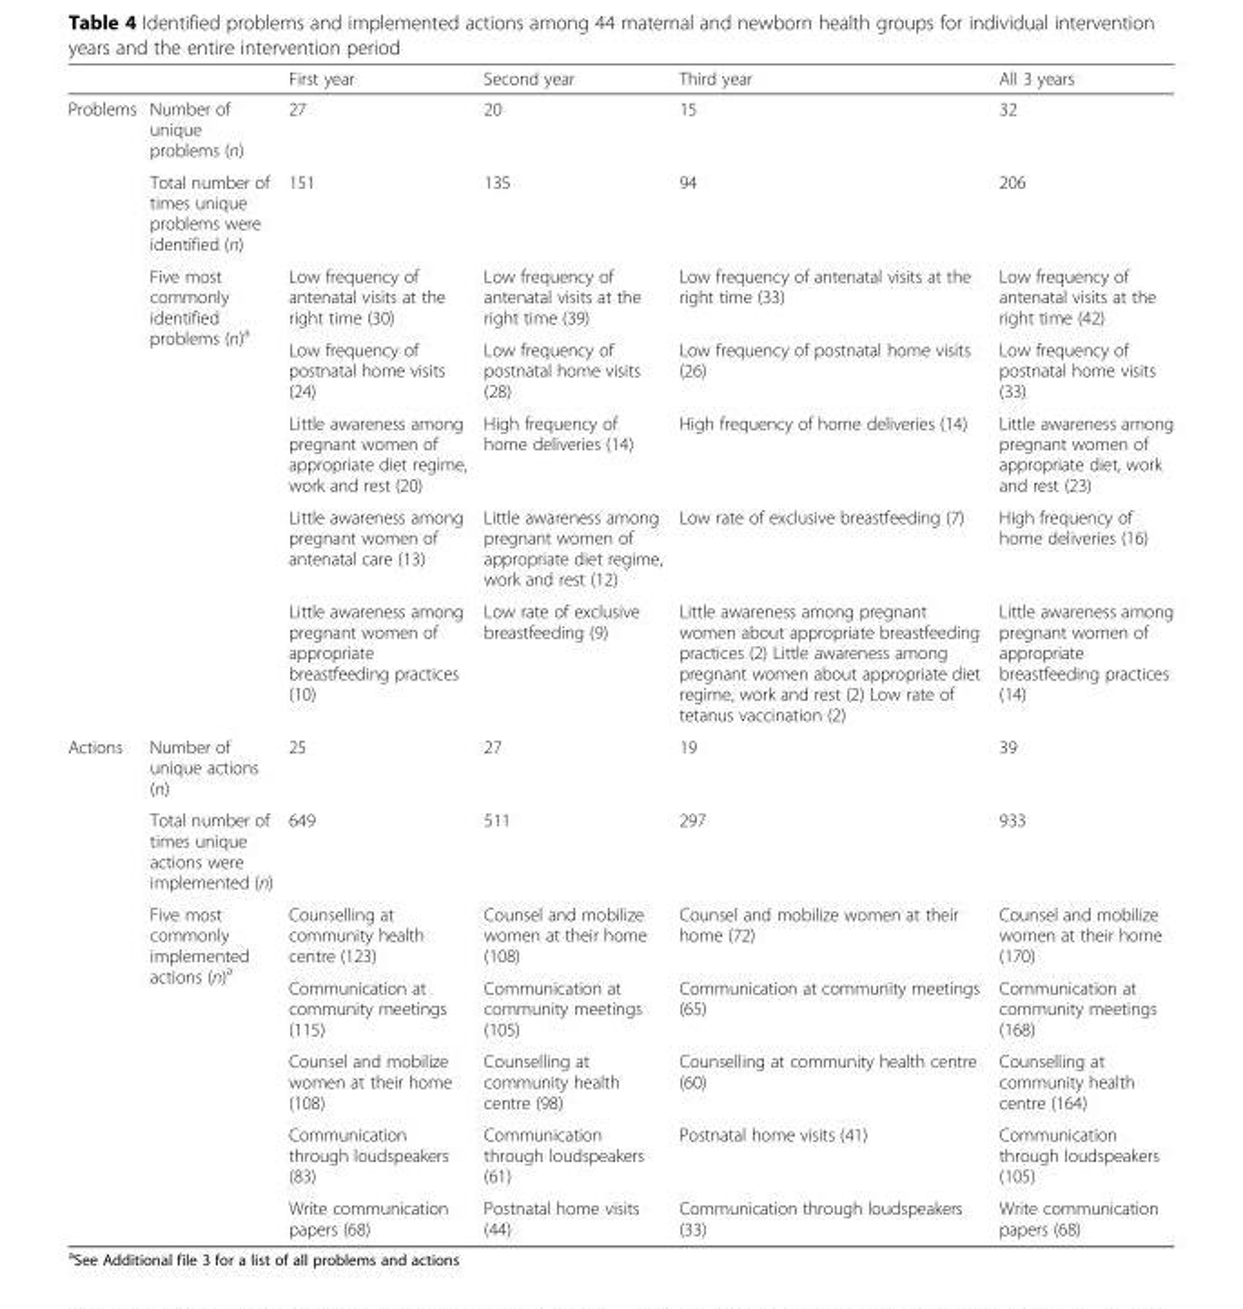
<table><thead><tr><td></td><td></td><td>First year</td><td>Second year</td><td>Third year</td><td>All 3 years</td></tr></thead><tbody><tr><td rowspan="7">Problems</td><td>Number of unique problems (n)</td><td>27</td><td>20</td><td>15</td><td>32</td></tr><tr><td>Total number of times unique problems were identified (n)</td><td>151</td><td>135</td><td>94</td><td>206</td></tr><tr><td rowspan="5">Five most commonly identified problems (n)<sup>a</sup></td><td>Low frequency of antenatal visits at the right time (30)</td><td>Low frequency of antenatal visits at the right time (39)</td><td>Low frequency of antenatal visits at the right time (33)</td><td>Low frequency of antenatal visits at the right time (42)</td></tr><tr><td>Low frequency of postnatal home visits (24)</td><td>Low frequency of postnatal home visits (28)</td><td>Low frequency of postnatal home visits (26)</td><td>Low frequency of postnatal home visits (33)</td></tr><tr><td>Little awareness among pregnant women of appropriate diet regime, work and rest (20)</td><td>High frequency of home deliveries (14)</td><td>High frequency of home deliveries (14)</td><td>Little awareness among pregnant women of appropriate diet, work and rest (23)</td></tr><tr><td>Little awareness among pregnant women of antenatal care (13)</td><td>Little awareness among pregnant women of appropriate diet regime, work and rest (12)</td><td>Low rate of exclusive breastfeeding (7)</td><td>High frequency of home deliveries (16)</td></tr><tr><td>Little awareness among pregnant women of appropriate breastfeeding practices (10)</td><td>Low rate of exclusive breastfeeding (9)</td><td>Little awareness among pregnant women about appropriate breastfeeding practices (2) Little awareness among pregnant women about appropriate diet regime, work and rest (2) Low rate of tetanus vaccination (2)</td><td>Little awareness among pregnant women of appropriate breastfeeding practices (14)</td></tr><tr><td rowspan="7">Actions</td><td>Number of unique actions (n)</td><td>25</td><td>27</td><td>19</td><td>39</td></tr><tr><td>Total number of times unique actions were implemented (n)</td><td>649</td><td>511</td><td>297</td><td>933</td></tr><tr><td rowspan="5">Five most commonly implemented actions (n)<sup>a</sup></td><td>Counselling at community health centre (123)</td><td>Counsel and mobilize women at their home (108)</td><td>Counsel and mobilize women at their home (72)</td><td>Counsel and mobilize women at their home (170)</td></tr><tr><td>Communication at community meetings (115)</td><td>Communication at community meetings (105)</td><td>Communication at community meetings (65)</td><td>Communication at community meetings (168)</td></tr><tr><td>Counsel and mobilize women at their home (108)</td><td>Counselling at community health centre (98)</td><td>Counselling at community health centre (60)</td><td>Counselling at community health centre (164)</td></tr><tr><td>Communication through loudspeakers (83)</td><td>Communication through loudspeakers (61)</td><td>Postnatal home visits (41)</td><td>Communication through loudspeakers (105)</td></tr><tr><td>Write communication papers (68)</td><td>Postnatal home visits (44)</td><td>Communication through loudspeakers (33)</td><td>Write communication papers (68)</td></tr></tbody></table>